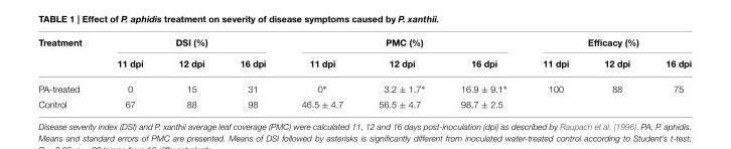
<table><thead><tr><td rowspan="2">Treatment</td><td colspan="3">DSI (%)</td><td colspan="3">PMC (%)</td><td colspan="3">Efficacy (%)</td></tr><tr><td>11 dpi</td><td>12 dpi</td><td>16 dpi</td><td>11 dpi</td><td>12 dpi</td><td>16 dpi</td><td>11 dpi</td><td>12 dpi</td><td>16 dpi</td></tr></thead><tbody><tr><td>PA-treated</td><td>0</td><td>15</td><td>31</td><td>0∗</td><td>3.2 ± 1.7∗</td><td>16.9 ± 9.1∗</td><td>100</td><td>88</td><td>75</td></tr><tr><td>Control</td><td>67</td><td>88</td><td>98</td><td>46.5 ± 4.7</td><td>56.5 ± 4.7</td><td>98.7 ± 2.5</td><td></td><td></td><td></td></tr></tbody></table>